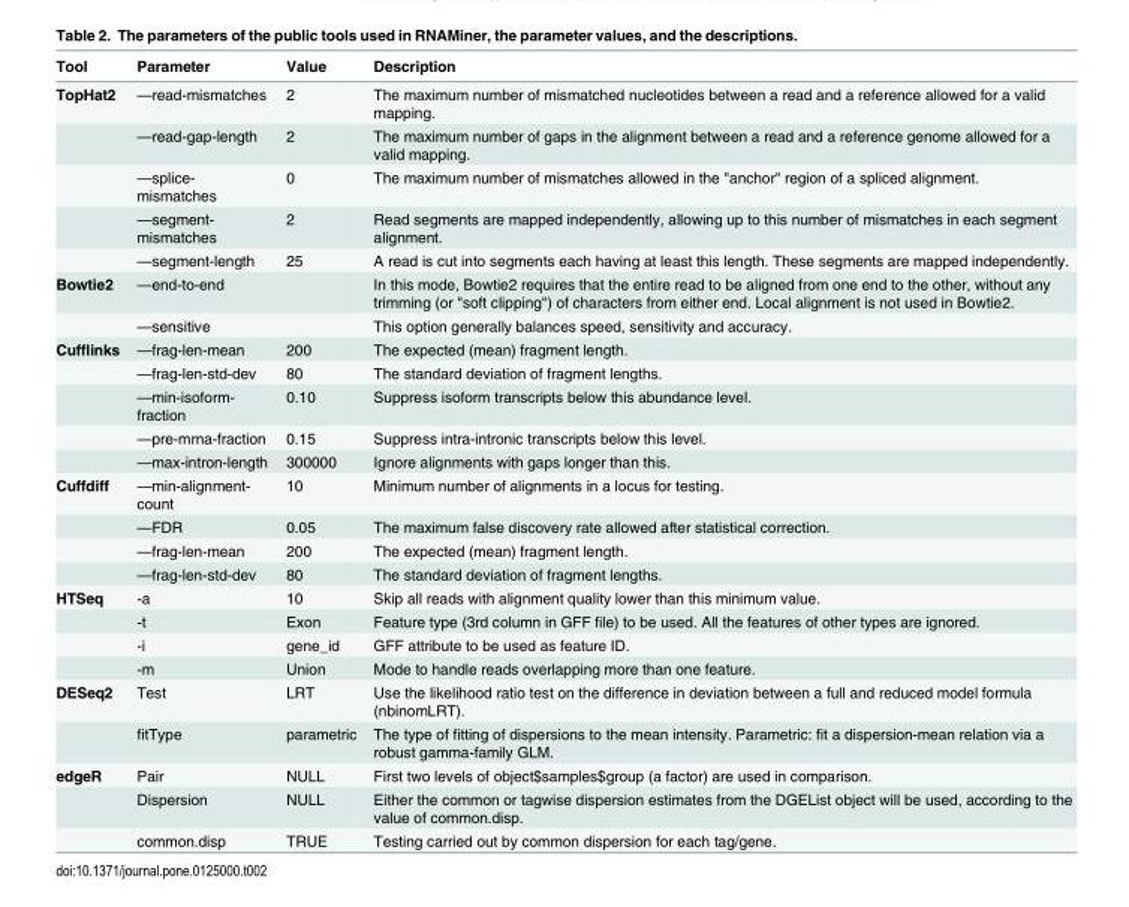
<table><thead><tr><td>Tool</td><td>Parameter</td><td>Value</td><td>Description</td></tr></thead><tbody><tr><td rowspan="5">TopHat2</td><td>—read-mismatches</td><td>2</td><td>The maximum number of mismatched nucleotides between a read and a reference allowed for a valid mapping.</td></tr><tr><td>—read-gap-length</td><td>2</td><td>The maximum number of gaps in the alignment between a read and a reference genome allowed for a valid mapping.</td></tr><tr><td>—splice- mismatches</td><td>0</td><td>The maximum number of mismatches allowed in the &quot;anchor&quot; region of a spliced alignment.</td></tr><tr><td>—segment- mismatches</td><td>2</td><td>Read segments are mapped independently, allowing up to this number of mismatches in each segment alignment.</td></tr><tr><td>—segment-length</td><td>25</td><td>A read is cut into segments each having at least this length. These segments are mapped independently.</td></tr><tr><td rowspan="2">Bowtie2</td><td>—end-to-end</td><td></td><td>In this mode, Bowtie2 requires that the entire read to be aligned from one end to the other, without any trimming (or &quot;soft clipping&quot;) of characters from either end. Local alignment is not used in Bowtie2.</td></tr><tr><td>—sensitive</td><td></td><td>This option generally balances speed, sensitivity and accuracy.</td></tr><tr><td rowspan="5">Cufflinks</td><td>—frag-len-mean</td><td>200</td><td>The expected (mean) fragment length.</td></tr><tr><td>—frag-len-std-dev</td><td>80</td><td>The standard deviation of fragment lengths.</td></tr><tr><td>—min-isoform- fraction</td><td>0.10</td><td>Suppress isoform transcripts below this abundance level.</td></tr><tr><td>—pre-mrna-fraction</td><td>0.15</td><td>Suppress intra-intronic transcripts below this level.</td></tr><tr><td>—max-intron-length</td><td>300000</td><td>Ignore alignments with gaps longer than this.</td></tr><tr><td rowspan="4">Cuffdiff</td><td>—min-alignment- count</td><td>10</td><td>Minimum number of alignments in a locus for testing.</td></tr><tr><td>—FDR</td><td>0.05</td><td>The maximum false discovery rate allowed after statistical correction.</td></tr><tr><td>—frag-len-mean</td><td>200</td><td>The expected (mean) fragment length.</td></tr><tr><td>—frag-len-std-dev</td><td>80</td><td>The standard deviation of fragment lengths.</td></tr><tr><td rowspan="4">HTSeq</td><td>-a</td><td>10</td><td>Skip all reads with alignment quality lower than this minimum value.</td></tr><tr><td>-t</td><td>Exon</td><td>Feature type (3rd column in GFF file) to be used. All the features of other types are ignored.</td></tr><tr><td>-i</td><td>gene_id</td><td>GFF attribute to be used as feature ID.</td></tr><tr><td>-m</td><td>Union</td><td>Mode to handle reads overlapping more than one feature.</td></tr><tr><td rowspan="2">DESeq2</td><td>Test</td><td>LRT</td><td>Use the likelihood ratio test on the difference in deviation between a full and reduced model formula (nbinomLRT).</td></tr><tr><td>fitType</td><td>parametric</td><td>The type of fitting of dispersions to the mean intensity. Parametric: fit a dispersion-mean relation via a robust gamma-family GLM.</td></tr><tr><td rowspan="3">edgeR</td><td>Pair</td><td>NULL</td><td>First two levels of object$samples$group (a factor) are used in comparison.</td></tr><tr><td>Dispersion</td><td>NULL</td><td>Either the common or tagwise dispersion estimates from the DGEList object will be used, according to the value of common.disp.</td></tr><tr><td>common.disp</td><td>TRUE</td><td>Testing carried out by common dispersion for each tag/gene.</td></tr></tbody></table>